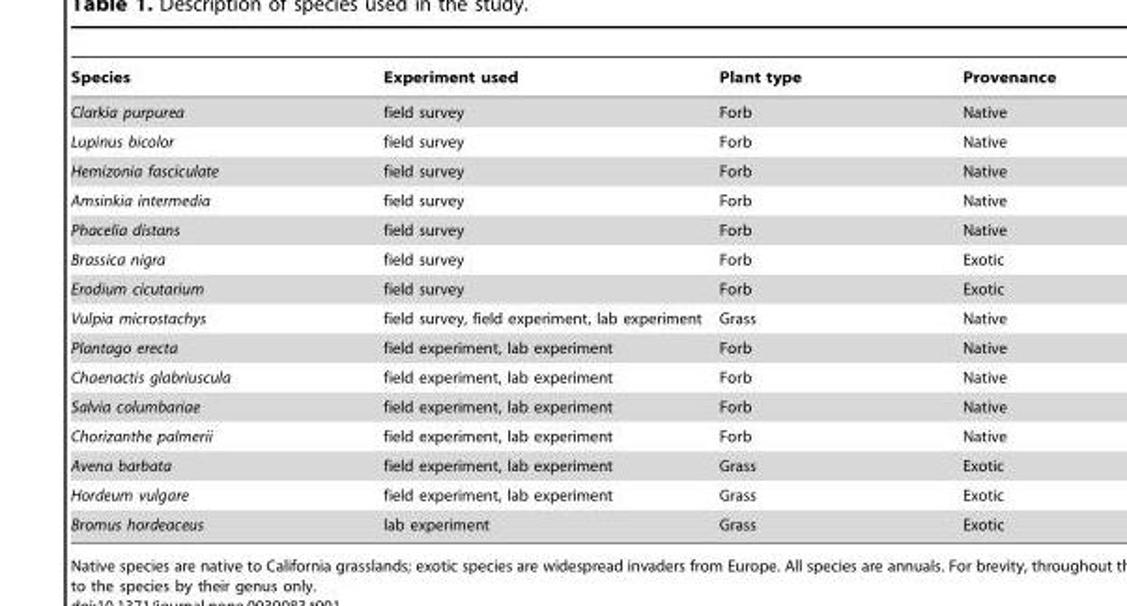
<table><thead><tr><td>Species</td><td>Experiment used</td><td>Plant type</td><td>Provenance</td></tr></thead><tbody><tr><td>Clarkia purpurea</td><td>field survey</td><td>Forb</td><td>Native</td></tr><tr><td>Lupinus bicolor</td><td>field survey</td><td>Forb</td><td>Native</td></tr><tr><td>Hemizonia fasciculate</td><td>field survey</td><td>Forb</td><td>Native</td></tr><tr><td>Amsinkia intermedia</td><td>field survey</td><td>Forb</td><td>Native</td></tr><tr><td>Phacelia distans</td><td>field survey</td><td>Forb</td><td>Native</td></tr><tr><td>Brassica nigra</td><td>field survey</td><td>Forb</td><td>Exotic</td></tr><tr><td>Erodium cicutarium</td><td>field survey</td><td>Forb</td><td>Exotic</td></tr><tr><td>Vulpia microstachys</td><td>field survey, field experiment, lab experiment</td><td>Grass</td><td>Native</td></tr><tr><td>Plantago erecta</td><td>field experiment, lab experiment</td><td>Forb</td><td>Native</td></tr><tr><td>Chaenactis glabriuscula</td><td>field experiment, lab experiment</td><td>Forb</td><td>Native</td></tr><tr><td>Salvia columbariae</td><td>field experiment, lab experiment</td><td>Forb</td><td>Native</td></tr><tr><td>Chorizanthe palmerii</td><td>field experiment, lab experiment</td><td>Forb</td><td>Native</td></tr><tr><td>Avena barbata</td><td>field experiment, lab experiment</td><td>Grass</td><td>Exotic</td></tr><tr><td>Hordeum vulgare</td><td>field experiment, lab experiment</td><td>Grass</td><td>Exotic</td></tr><tr><td>Bromus hordeaceus</td><td>lab experiment</td><td>Grass</td><td>Exotic</td></tr></tbody></table>